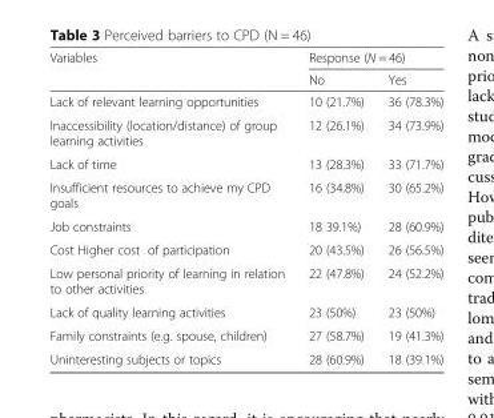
<table><thead><tr><td rowspan="2">Variables</td><td colspan="2">Response (N = 46)</td></tr><tr><td>No</td><td>Yes</td></tr></thead><tbody><tr><td>Lack of relevant learning opportunities</td><td>10 (21.7%)</td><td>36 (78.3%)</td></tr><tr><td>Inaccessibility (location/distance) of group learning activities</td><td>12 (26.1%)</td><td>34 (73.9%)</td></tr><tr><td>Lack of time</td><td>13 (28.3%)</td><td>33 (71.7%)</td></tr><tr><td>Insufficient resources to achieve my CPD goals</td><td>16 (34.8%)</td><td>30 (65.2%)</td></tr><tr><td>Job constraints</td><td>18 39.1%)</td><td>28 (60.9%)</td></tr><tr><td>Cost Higher cost of participation</td><td>20 (43.5%)</td><td>26 (56.5%)</td></tr><tr><td>Low personal priority of learning in relation to other activities</td><td>22 (47.8%)</td><td>24 (52.2%)</td></tr><tr><td>Lack of quality learning activities</td><td>23 (50%)</td><td>23 (50%)</td></tr><tr><td>Family constraints (e.g. spouse, children)</td><td>27 (58.7%)</td><td>19 (41.3%)</td></tr><tr><td>Uninteresting subjects or topics</td><td>28 (60.9%)</td><td>18 (39.1%)</td></tr></tbody></table>